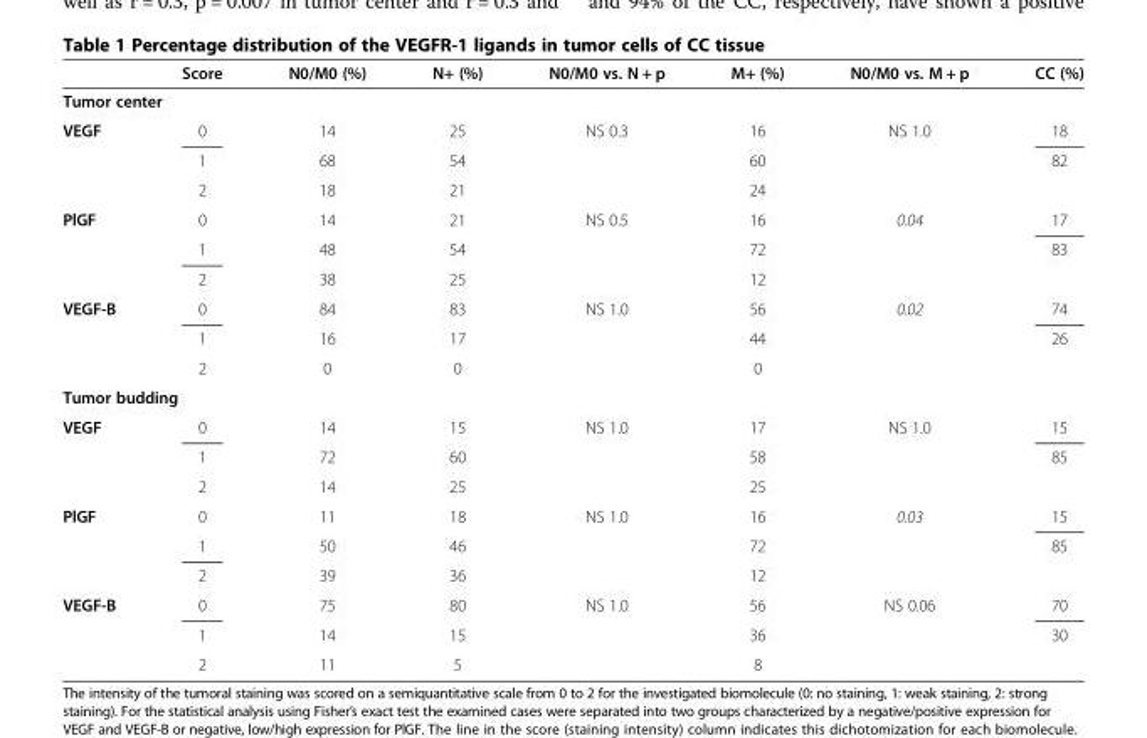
<table><thead><tr><td></td><td>Score</td><td>N0/M0 (%)</td><td>N+ (%)</td><td>N0/M0 vs. N + p</td><td>M+ (%)</td><td>N0/M0 vs. M + p</td><td>CC (%)</td></tr></thead><tbody><tr><td colspan="8">Tumor center</td></tr><tr><td rowspan="3">VEGF</td><td>0</td><td>14</td><td>25</td><td rowspan="3">NS 0.3</td><td>16</td><td rowspan="3">NS 1.0</td><td>18</td></tr><tr><td>1</td><td>68</td><td>54</td><td>60</td><td>82</td></tr><tr><td>2</td><td>18</td><td>21</td><td>24</td><td></td></tr><tr><td rowspan="3">PlGF</td><td>0</td><td>14</td><td>21</td><td rowspan="3">NS 0.5</td><td>16</td><td rowspan="3">0.04</td><td>17</td></tr><tr><td>1</td><td>48</td><td>54</td><td>72</td><td>83</td></tr><tr><td>2</td><td>38</td><td>25</td><td>12</td><td></td></tr><tr><td rowspan="3">VEGF-B</td><td>0</td><td>84</td><td>83</td><td rowspan="3">NS 1.0</td><td>56</td><td rowspan="3">0.02</td><td>74</td></tr><tr><td>1</td><td>16</td><td>17</td><td>44</td><td>26</td></tr><tr><td>2</td><td>0</td><td>0</td><td>0</td><td></td></tr><tr><td colspan="8">Tumor budding</td></tr><tr><td rowspan="3">VEGF</td><td>0</td><td>14</td><td>15</td><td rowspan="3">NS 1.0</td><td>17</td><td rowspan="3">NS 1.0</td><td>15</td></tr><tr><td>1</td><td>72</td><td>60</td><td>58</td><td>85</td></tr><tr><td>2</td><td>14</td><td>25</td><td>25</td><td></td></tr><tr><td rowspan="3">PlGF</td><td>0</td><td>11</td><td>18</td><td rowspan="3">NS 1.0</td><td>16</td><td rowspan="3">0.03</td><td>15</td></tr><tr><td>1</td><td>50</td><td>46</td><td>72</td><td>85</td></tr><tr><td>2</td><td>39</td><td>36</td><td>12</td><td></td></tr><tr><td rowspan="3">VEGF-B</td><td>0</td><td>75</td><td>80</td><td rowspan="3">NS 1.0</td><td>56</td><td rowspan="3">NS 0.06</td><td>70</td></tr><tr><td>1</td><td>14</td><td>15</td><td>36</td><td>30</td></tr><tr><td>2</td><td>11</td><td>5</td><td>8</td><td></td></tr></tbody></table>